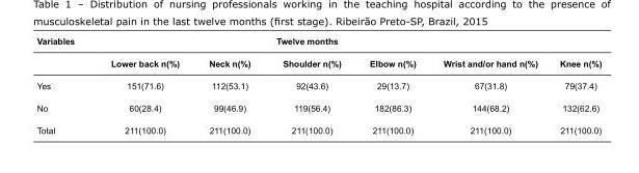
<table><tbody><tr><td rowspan="2">Variables</td><td colspan="6">Twelve months</td></tr><tr><td>Lower back n(%)</td><td>Neck n(%)</td><td>Shoulder n(%)</td><td>Elbow n(%)</td><td>Wrist and/or hand n(%)</td><td>Knee n(%)</td></tr><tr><td>Yes</td><td>151(71.6)</td><td>112(53.1)</td><td>92(43.6)</td><td>29(13.7)</td><td>67(31.8)</td><td>79(37.4)</td></tr><tr><td>No</td><td>60(28.4)</td><td>99(46.9)</td><td>119(56.4)</td><td>182(86.3)</td><td>144(68.2)</td><td>132(62.6)</td></tr><tr><td>Total</td><td>211(100.0)</td><td>211(100.0)</td><td>211(100.0)</td><td>211(100.0)</td><td>211(100.0)</td><td>211(100.0)</td></tr></tbody></table>